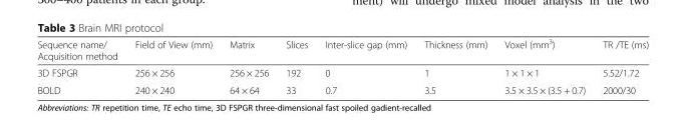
<table><thead><tr><td>Sequence name/ Acquisition method</td><td>Field of View (mm)</td><td>Matrix</td><td>Slices</td><td>Inter-slice gap (mm)</td><td>Thickness (mm)</td><td>Voxel (mm<sup>3</sup>)</td><td>TR /TE (ms)</td></tr></thead><tbody><tr><td>3D FSPGR</td><td>256 × 256</td><td>256 × 256</td><td>192</td><td>0</td><td>1</td><td>1 × 1 × 1</td><td>5.52/1.72</td></tr><tr><td>BOLD</td><td>240 × 240</td><td>64 × 64</td><td>33</td><td>0.7</td><td>3.5</td><td>3.5 × 3.5 × (3.5 + 0.7)</td><td>2000/30</td></tr></tbody></table>